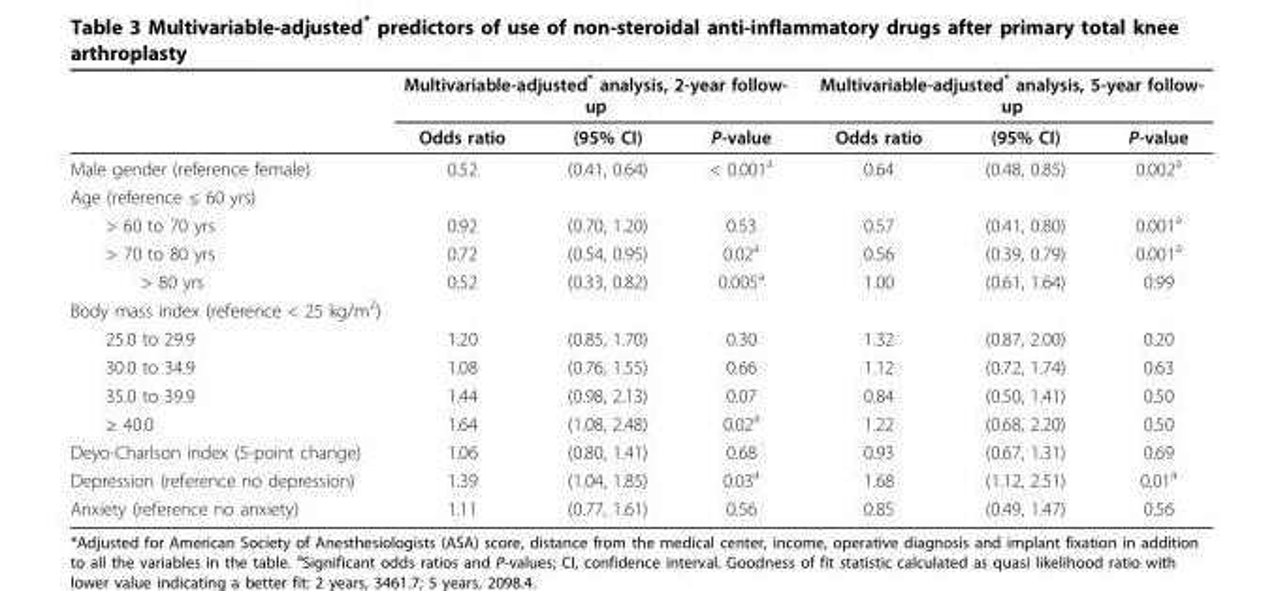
<table><thead><tr><td rowspan="2"></td><td colspan="3">Multivariable-adjusted* analysis, 2-year follow- up</td><td colspan="3">Multivariable-adjusted* analysis, 5-year follow- up</td></tr><tr><td>Odds ratio</td><td>(95% CI)</td><td>P-value</td><td>Odds ratio</td><td>(95% CI)</td><td>P-value</td></tr></thead><tbody><tr><td>Male gender (reference female)</td><td>0.52</td><td>(0.41, 0.64)</td><td>&lt; 0.001<sup>a</sup></td><td>0.64</td><td>(0.48, 0.85)</td><td>0.002<sup>a</sup></td></tr><tr><td colspan="7">Age (reference ≤ 60 yrs)</td></tr><tr><td>&gt; 60 to 70 yrs</td><td>0.92</td><td>(0.70, 1.20)</td><td>0.53</td><td>0.57</td><td>(0.41, 0.80)</td><td>0.001<sup>a</sup></td></tr><tr><td>&gt; 70 to 80 yrs</td><td>0.72</td><td>(0.54, 0.95)</td><td>0.02<sup>a</sup></td><td>0.56</td><td>(0.39, 0.79)</td><td>0.001<sup>a</sup></td></tr><tr><td>&gt; 80 yrs</td><td>0.52</td><td>(0.33, 0.82)</td><td>0.005<sup>a</sup></td><td>1.00</td><td>(0.61, 1.64)</td><td>0.99</td></tr><tr><td colspan="7">Body mass index (reference &lt; 25 kg/m<sup>2</sup>)</td></tr><tr><td>25.0 to 29.9</td><td>1.20</td><td>(0.85, 1.70)</td><td>0.30</td><td>1.32</td><td>(0.87, 2.00)</td><td>0.20</td></tr><tr><td>30.0 to 34.9</td><td>1.08</td><td>(0.76, 1.55)</td><td>0.66</td><td>1.12</td><td>(0.72, 1.74)</td><td>0.63</td></tr><tr><td>35.0 to 39.9</td><td>1.44</td><td>(0.98, 2.13)</td><td>0.07</td><td>0.84</td><td>(0.50, 1.41)</td><td>0.50</td></tr><tr><td>≥ 40.0</td><td>1.64</td><td>(1.08, 2.48)</td><td>0.02<sup>a</sup></td><td>1.22</td><td>(0.68, 2.20)</td><td>0.50</td></tr><tr><td>Deyo-Charlson index (5-point change)</td><td>1.06</td><td>(0.80, 1.41)</td><td>0.68</td><td>0.93</td><td>(0.67, 1.31)</td><td>0.69</td></tr><tr><td>Depression (reference no depression)</td><td>1.39</td><td>(1.04, 1.85)</td><td>0.03<sup>a</sup></td><td>1.68</td><td>(1.12, 2.51)</td><td>0.01<sup>a</sup></td></tr><tr><td>Anxiety (reference no anxiety)</td><td>1.11</td><td>(0.77, 1.61)</td><td>0.56</td><td>0.85</td><td>(0.49, 1.47)</td><td>0.56</td></tr></tbody></table>